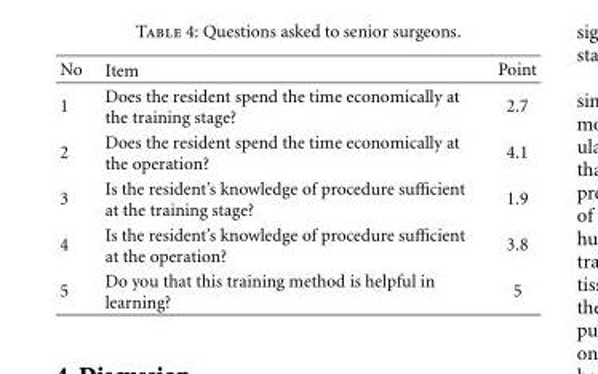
<table><thead><tr><td>No</td><td>Item</td><td>Point</td></tr></thead><tbody><tr><td>1</td><td>Does the resident spend the time economically at the training stage?</td><td>2.7</td></tr><tr><td>2</td><td>Does the resident spend the time economically at the operation?</td><td>4.1</td></tr><tr><td>3</td><td>Is the resident’s knowledge of procedure sufficient at the training stage?</td><td>1.9</td></tr><tr><td>4</td><td>Is the resident’s knowledge of procedure sufficient at the operation?</td><td>3.8</td></tr><tr><td>5</td><td>Do you that this training method is helpful in learning?</td><td>5</td></tr></tbody></table>